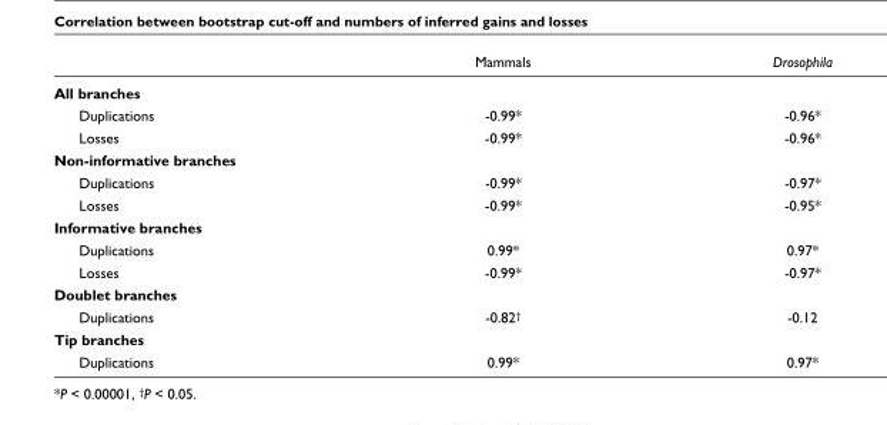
<table><thead><tr><td></td><td>Mammals</td><td>Drosophila</td></tr></thead><tbody><tr><td colspan="3">All branches</td></tr><tr><td>Duplications</td><td>-0.99*</td><td>-0.96*</td></tr><tr><td>Losses</td><td>-0.99*</td><td>-0.96*</td></tr><tr><td colspan="3">Non-informative branches</td></tr><tr><td>Duplications</td><td>-0.99*</td><td>-0.97*</td></tr><tr><td>Losses</td><td>-0.99*</td><td>-0.95*</td></tr><tr><td colspan="3">Informative branches</td></tr><tr><td>Duplications</td><td>0.99*</td><td>0.97*</td></tr><tr><td>Losses</td><td>-0.99*</td><td>-0.97*</td></tr><tr><td colspan="3">Doublet branches</td></tr><tr><td>Duplications</td><td>-0.82<sup>†</sup></td><td>-0.12</td></tr><tr><td colspan="3">Tip branches</td></tr><tr><td>Duplications</td><td>0.99*</td><td>0.97*</td></tr></tbody></table>